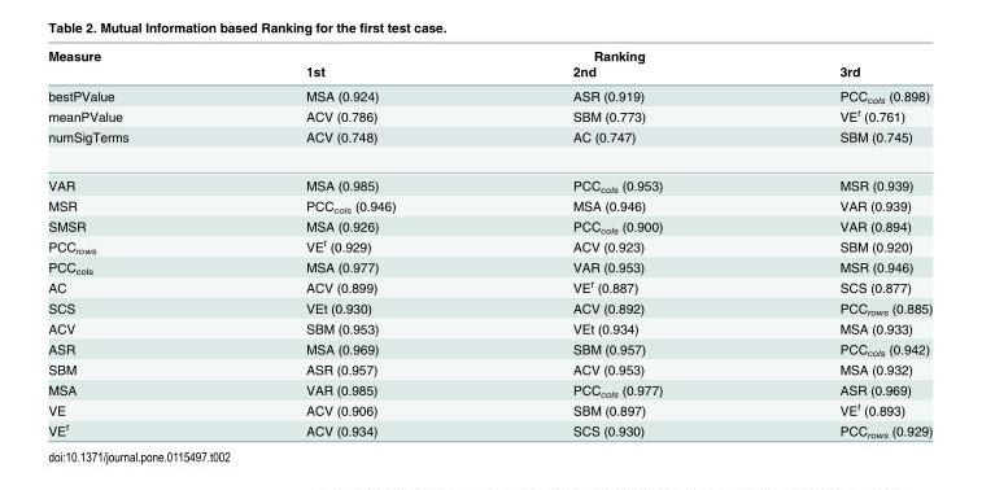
<table><thead><tr><td rowspan="2">Measure</td><td colspan="3">Ranking</td></tr><tr><td>1st</td><td>2nd</td><td>3rd</td></tr></thead><tbody><tr><td>bestPValue</td><td>MSA (0.924)</td><td>ASR (0.919)</td><td>PCC<sub>cols</sub> (0.898)</td></tr><tr><td>meanPValue</td><td>ACV (0.786)</td><td>SBM (0.773)</td><td>VE<sup>t</sup> (0.761)</td></tr><tr><td>numSigTerms</td><td>ACV (0.748)</td><td>AC (0.747)</td><td>SBM (0.745)</td></tr><tr><td>VAR</td><td>MSA (0.985)</td><td>PCC<sub>cols</sub> (0.953)</td><td>MSR (0.939)</td></tr><tr><td>MSR</td><td>PCC<sub>cols</sub> (0.946)</td><td>MSA (0.946)</td><td>VAR (0.939)</td></tr><tr><td>SMSR</td><td>MSA (0.926)</td><td>PCC<sub>cols</sub> (0.900)</td><td>VAR (0.894)</td></tr><tr><td>PCC<sub>rows</sub></td><td>VE<sup>t</sup> (0.929)</td><td>ACV (0.923)</td><td>SBM (0.920)</td></tr><tr><td>PCC<sub>cols</sub></td><td>MSA (0.977)</td><td>VAR (0.953)</td><td>MSR (0.946)</td></tr><tr><td>AC</td><td>ACV (0.899)</td><td>VE<sup>t</sup> (0.887)</td><td>SCS (0.877)</td></tr><tr><td>SCS</td><td>VEt (0.930)</td><td>ACV (0.892)</td><td>PCC<sub>rows</sub> (0.885)</td></tr><tr><td>ACV</td><td>SBM (0.953)</td><td>VEt (0.934)</td><td>MSA (0.933)</td></tr><tr><td>ASR</td><td>MSA (0.969)</td><td>SBM (0.957)</td><td>PCC<sub>cols</sub> (0.942)</td></tr><tr><td>SBM</td><td>ASR (0.957)</td><td>ACV (0.953)</td><td>MSA (0.932)</td></tr><tr><td>MSA</td><td>VAR (0.985)</td><td>PCC<sub>cols</sub> (0.977)</td><td>ASR (0.969)</td></tr><tr><td>VE</td><td>ACV (0.906)</td><td>SBM (0.897)</td><td>VE<sup>t</sup> (0.893)</td></tr><tr><td>VE<sup>t</sup></td><td>ACV (0.934)</td><td>SCS (0.930)</td><td>PCC<sub>rows</sub> (0.929)</td></tr></tbody></table>